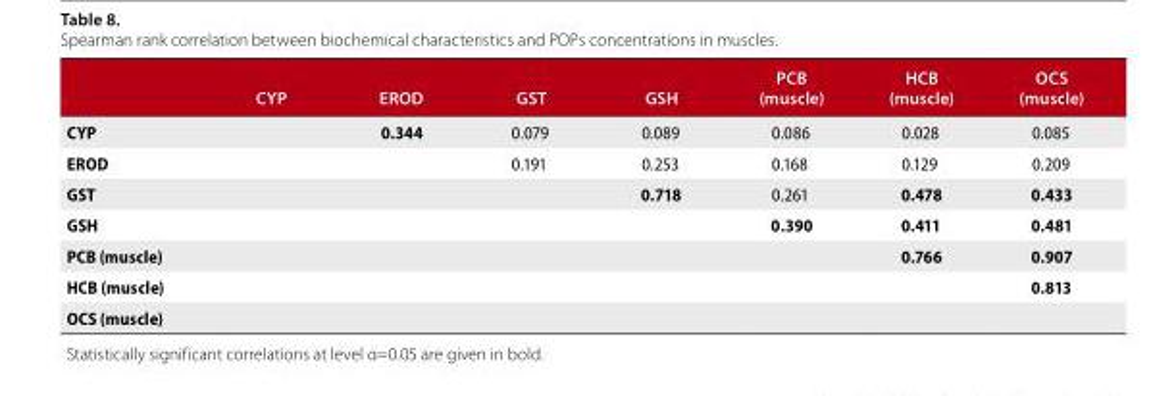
<table><thead><tr><td></td><td>CYP</td><td>eRod</td><td>GST</td><td>GSH</td><td>PCB (muscle)</td><td>HCB (muscle)</td><td>oCS (muscle)</td></tr></thead><tbody><tr><td>CYP</td><td></td><td>0.344</td><td>0.079</td><td>0.089</td><td>0.086</td><td>0.028</td><td>0.085</td></tr><tr><td>EROD</td><td></td><td></td><td>0.191</td><td>0.253</td><td>0.168</td><td>0.129</td><td>0.209</td></tr><tr><td>GST</td><td></td><td></td><td></td><td>0.718</td><td>0.261</td><td>0.478</td><td>0.433</td></tr><tr><td>GSH</td><td></td><td></td><td></td><td></td><td>0.390</td><td>0.411</td><td>0.481</td></tr><tr><td>PCB (muscle)</td><td></td><td></td><td></td><td></td><td></td><td>0.766</td><td>0.907</td></tr><tr><td>HCB (muscle)</td><td></td><td></td><td></td><td></td><td></td><td></td><td>0.813</td></tr><tr><td>OCS (muscle)</td><td></td><td></td><td></td><td></td><td></td><td></td><td></td></tr></tbody></table>